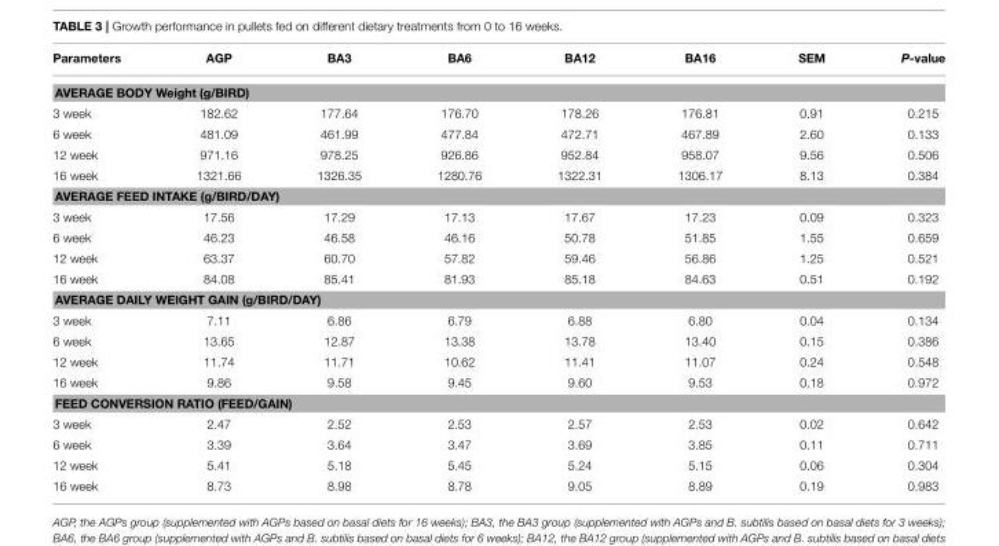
<table><thead><tr><td>Parameters</td><td>AGP</td><td>BA3</td><td>BA6</td><td>BA12</td><td>BA16</td><td>SEM</td><td>P-value</td></tr></thead><tbody><tr><td colspan="8">AVERAGE BODY Weight (g/BIRD)</td></tr><tr><td>3 week</td><td>182.62</td><td>177.64</td><td>176.70</td><td>178.26</td><td>176.81</td><td>0.91</td><td>0.215</td></tr><tr><td>6 week</td><td>481.09</td><td>461.99</td><td>477.84</td><td>472.71</td><td>467.89</td><td>2.60</td><td>0.133</td></tr><tr><td>12 week</td><td>971.16</td><td>978.25</td><td>926.86</td><td>952.84</td><td>958.07</td><td>9.56</td><td>0.506</td></tr><tr><td>16 week</td><td>1321.66</td><td>1326.35</td><td>1280.76</td><td>1322.31</td><td>1306.17</td><td>8.13</td><td>0.384</td></tr><tr><td colspan="8">AVERAGE FEED INTAKE (g/BIRD/DAY)</td></tr><tr><td>3 week</td><td>17.56</td><td>17.29</td><td>17.13</td><td>17.67</td><td>17.23</td><td>0.09</td><td>0.323</td></tr><tr><td>6 week</td><td>46.23</td><td>46.58</td><td>46.16</td><td>50.78</td><td>51.85</td><td>1.55</td><td>0.659</td></tr><tr><td>12 week</td><td>63.37</td><td>60.70</td><td>57.82</td><td>59.46</td><td>56.86</td><td>1.25</td><td>0.521</td></tr><tr><td>16 week</td><td>84.08</td><td>85.41</td><td>81.93</td><td>85.18</td><td>84.63</td><td>0.51</td><td>0.192</td></tr><tr><td colspan="8">AVERAGE DAILY WEIGHT GAIN (g/BIRD/DAY)</td></tr><tr><td>3 week</td><td>7.11</td><td>6.86</td><td>6.79</td><td>6.88</td><td>6.80</td><td>0.04</td><td>0.134</td></tr><tr><td>6 week</td><td>13.65</td><td>12.87</td><td>13.38</td><td>13.78</td><td>13.40</td><td>0.15</td><td>0.386</td></tr><tr><td>12 week</td><td>11.74</td><td>11.71</td><td>10.62</td><td>11.41</td><td>11.07</td><td>0.24</td><td>0.548</td></tr><tr><td>16 week</td><td>9.86</td><td>9.58</td><td>9.45</td><td>9.60</td><td>9.53</td><td>0.18</td><td>0.972</td></tr><tr><td colspan="8">FEED CONVERSION RATIO (FEED/GAIN)</td></tr><tr><td>3 week</td><td>2.47</td><td>2.52</td><td>2.53</td><td>2.57</td><td>2.53</td><td>0.02</td><td>0.642</td></tr><tr><td>6 week</td><td>3.39</td><td>3.64</td><td>3.47</td><td>3.69</td><td>3.85</td><td>0.11</td><td>0.711</td></tr><tr><td>12 week</td><td>5.41</td><td>5.18</td><td>5.45</td><td>5.24</td><td>5.15</td><td>0.06</td><td>0.304</td></tr><tr><td>16 week</td><td>8.73</td><td>8.98</td><td>8.78</td><td>9.05</td><td>8.89</td><td>0.19</td><td>0.983</td></tr></tbody></table>